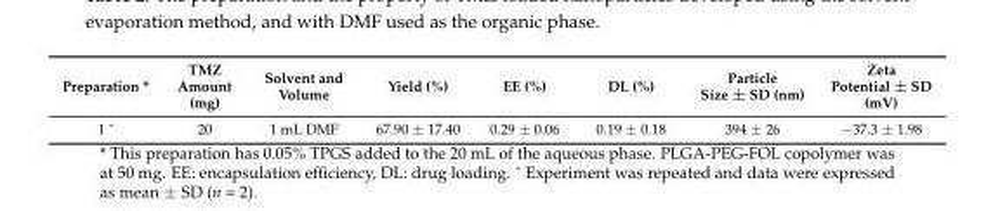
<table><thead><tr><td>Preparation *</td><td>TMZ Amount (mg)</td><td>Solvent and Volume</td><td>Yield (%)</td><td>EE (%)</td><td>DL (%)</td><td>Particle Size ± SD (nm)</td><td>Zeta Potential ± SD (mV)</td></tr></thead><tbody><tr><td>1 ˆ</td><td>20</td><td>1 mL DMF</td><td>67.90 ± 17.40</td><td>0.29 ± 0.06</td><td>0.19 ± 0.18</td><td>394 ± 26</td><td>−37.3 ± 1.98</td></tr></tbody></table>